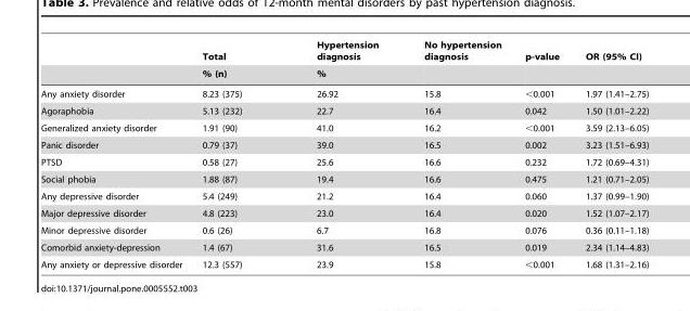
<table><thead><tr><td rowspan="2"></td><td rowspan="2">Total % (n)</td><td rowspan="2">Hypertension diagnosis %</td><td rowspan="2">No hypertension diagnosis</td><td rowspan="2">p-value</td><td rowspan="2">OR (95% CI)</td></tr><tr></tr></thead><tbody><tr><td>Any anxiety disorder</td><td>8.23 (375)</td><td>26.92</td><td>15.8</td><td>&lt;0.001</td><td>1.97 (1.41–2.75)</td></tr><tr><td>Agoraphobia</td><td>5.13 (232)</td><td>22.7</td><td>16.4</td><td>0.042</td><td>1.50 (1.01–2.22)</td></tr><tr><td>Generalized anxiety disorder</td><td>1.91 (90)</td><td>41.0</td><td>16.2</td><td>&lt;0.001</td><td>3.59 (2.13–6.05)</td></tr><tr><td>Panic disorder</td><td>0.79 (37)</td><td>39.0</td><td>16.5</td><td>0.002</td><td>3.23 (1.51–6.93)</td></tr><tr><td>PTSD</td><td>0.58 (27)</td><td>25.6</td><td>16.6</td><td>0.232</td><td>1.72 (0.69–4.31)</td></tr><tr><td>Social phobia</td><td>1.88 (87)</td><td>19.4</td><td>16.6</td><td>0.475</td><td>1.21 (0.71–2.05)</td></tr><tr><td>Any depressive disorder</td><td>5.4 (249)</td><td>21.2</td><td>16.4</td><td>0.060</td><td>1.37 (0.99–1.90)</td></tr><tr><td>Major depressive disorder</td><td>4.8 (223)</td><td>23.0</td><td>16.4</td><td>0.020</td><td>1.52 (1.07–2.17)</td></tr><tr><td>Minor depressive disorder</td><td>0.6 (26)</td><td>6.7</td><td>16.8</td><td>0.076</td><td>0.36 (0.11–1.18)</td></tr><tr><td>Comorbid anxiety-depression</td><td>1.4 (67)</td><td>31.6</td><td>16.5</td><td>0.019</td><td>2.34 (1.14–4.83)</td></tr><tr><td>Any anxiety or depressive disorder</td><td>12.3 (557)</td><td>23.9</td><td>15.8</td><td>&lt;0.001</td><td>1.68 (1.31–2.16)</td></tr></tbody></table>